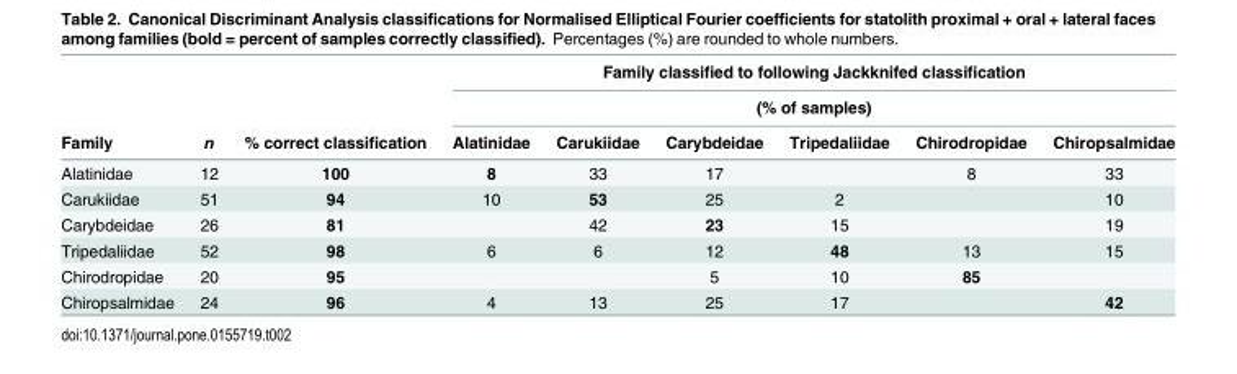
<table><thead><tr><td rowspan="3">Family</td><td rowspan="3">n</td><td rowspan="3">% correct classification</td><td rowspan="2" colspan="6">Family classified to following Jackknifed classification (% of samples)</td></tr><tr></tr><tr><td>Alatinidae</td><td>Carukiidae</td><td>Carybdeidae</td><td>Tripedaliidae</td><td>Chirodropidae</td><td>Chiropsalmidae</td></tr></thead><tbody><tr><td>Alatinidae</td><td>12</td><td>100</td><td>8</td><td>33</td><td>17</td><td></td><td>8</td><td>33</td></tr><tr><td>Carukiidae</td><td>51</td><td>94</td><td>10</td><td>53</td><td>25</td><td>2</td><td></td><td>10</td></tr><tr><td>Carybdeidae</td><td>26</td><td>81</td><td></td><td>42</td><td>23</td><td>15</td><td></td><td>19</td></tr><tr><td>Tripedaliidae</td><td>52</td><td>98</td><td>6</td><td>6</td><td>12</td><td>48</td><td>13</td><td>15</td></tr><tr><td>Chirodropidae</td><td>20</td><td>95</td><td></td><td></td><td>5</td><td>10</td><td>85</td><td></td></tr><tr><td>Chiropsalmidae</td><td>24</td><td>96</td><td>4</td><td>13</td><td>25</td><td>17</td><td></td><td>42</td></tr></tbody></table>